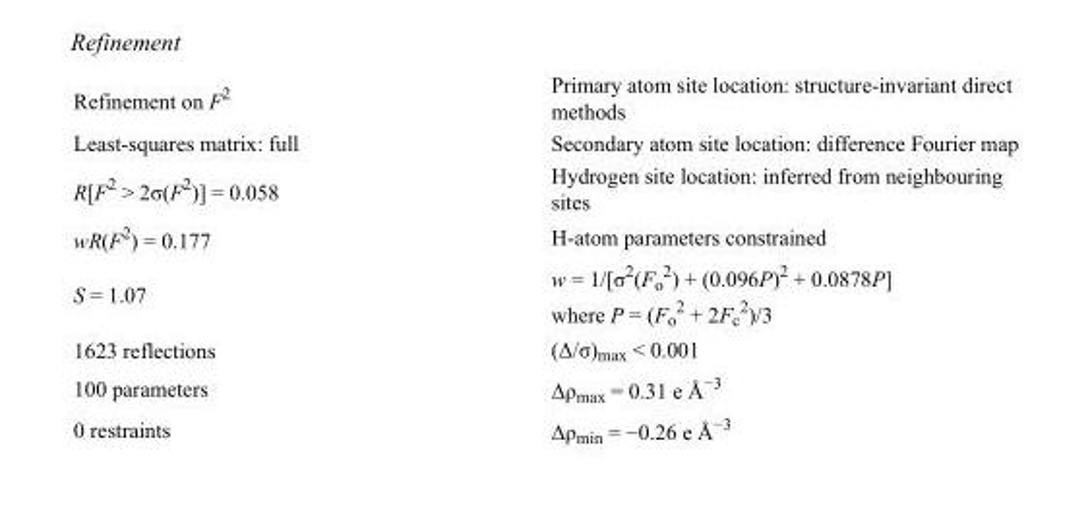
<table><tbody><tr><td>Refinement on F<sup>2</sup></td><td>Primary atom site location: structure-invariant direct methods</td></tr><tr><td>Least-squares matrix: full</td><td>Secondary atom site location: difference Fourier map</td></tr><tr><td>R[F<sup>2</sup> &gt; 2σ(F<sup>2</sup>)] = 0.058</td><td>Hydrogen site location: inferred from neighbouring sites</td></tr><tr><td>wR(F<sup>2</sup>) = 0.177</td><td>H-atom parameters constrained</td></tr><tr><td>S = 1.07</td><td>w = 1/[σ<sup>2</sup>(F<sub>o</sub> <sup>2</sup>) + (0.096P)<sup>2</sup> + 0.0878P] where P = (F<sub>o</sub> <sup>2</sup> + 2F<sub>c</sub> <sup>2</sup>)/3</td></tr><tr><td>1623 reflections</td><td>(Δ/σ)<sub>max</sub> &lt; 0.001</td></tr><tr><td>100 parameters</td><td>Δρ<sub>max</sub> = 0.31 e Å<sup>−3</sup></td></tr><tr><td>0 restraints</td><td>Δρ<sub>min</sub> = −0.26 e Å<sup>−3</sup></td></tr></tbody></table>